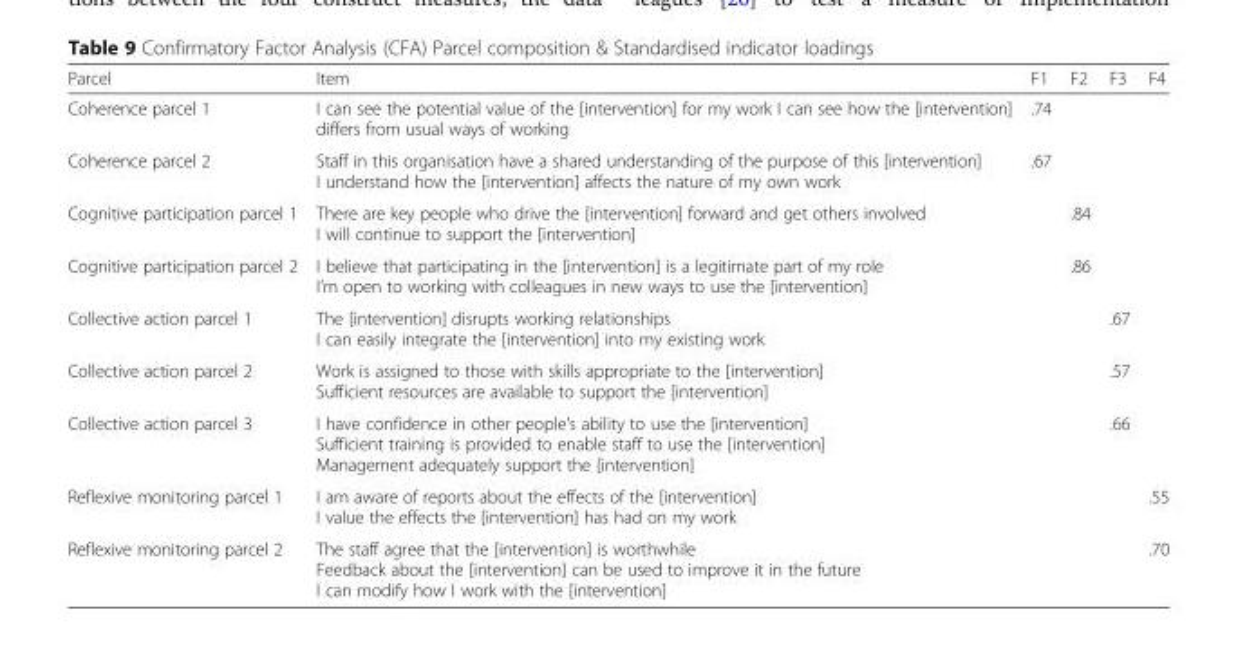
<table><thead><tr><td>Parcel</td><td>Item</td><td>F1</td><td>F2</td><td>F3</td><td>F4</td></tr></thead><tbody><tr><td>Coherence parcel 1</td><td>I can see the potential value of the [intervention] for my work I can see how the [intervention] differs from usual ways of working</td><td>.74</td><td></td><td></td><td></td></tr><tr><td>Coherence parcel 2</td><td>Staff in this organisation have a shared understanding of the purpose of this [intervention] I understand how the [intervention] affects the nature of my own work</td><td>.67</td><td></td><td></td><td></td></tr><tr><td>Cognitive participation parcel 1</td><td>There are key people who drive the [intervention] forward and get others involved I will continue to support the [intervention]</td><td></td><td>.84</td><td></td><td></td></tr><tr><td>Cognitive participation parcel 2</td><td>I believe that participating in the [intervention] is a legitimate part of my role I’m open to working with colleagues in new ways to use the [intervention]</td><td></td><td>.86</td><td></td><td></td></tr><tr><td>Collective action parcel 1</td><td>The [intervention] disrupts working relationships I can easily integrate the [intervention] into my existing work</td><td></td><td></td><td>.67</td><td></td></tr><tr><td>Collective action parcel 2</td><td>Work is assigned to those with skills appropriate to the [intervention] Sufficient resources are available to support the [intervention]</td><td></td><td></td><td>.57</td><td></td></tr><tr><td>Collective action parcel 3</td><td>I have confidence in other people’s ability to use the [intervention] Sufficient training is provided to enable staff to use the [intervention] Management adequately support the [intervention]</td><td></td><td></td><td>.66</td><td></td></tr><tr><td>Reflexive monitoring parcel 1</td><td>I am aware of reports about the effects of the [intervention] I value the effects the [intervention] has had on my work</td><td></td><td></td><td></td><td>.55</td></tr><tr><td>Reflexive monitoring parcel 2</td><td>The staff agree that the [intervention] is worthwhile Feedback about the [intervention] can be used to improve it in the future I can modify how I work with the [intervention]</td><td></td><td></td><td></td><td>.70</td></tr></tbody></table>